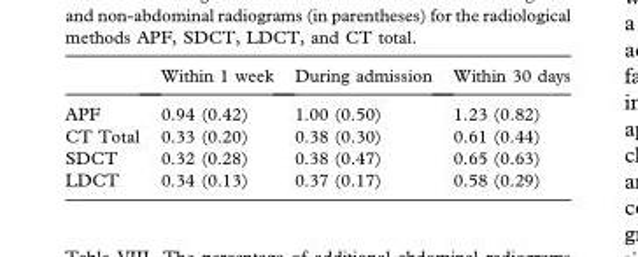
<table><thead><tr><td></td><td>Within 1 week</td><td>During admission</td><td>Within 30 days</td></tr></thead><tbody><tr><td>APF</td><td>0.94 (0.42)</td><td>1.00 (0.50)</td><td>1.23 (0.82)</td></tr><tr><td>CT Total</td><td>0.33 (0.20)</td><td>0.38 (0.30)</td><td>0.61 (0.44)</td></tr><tr><td>SDCT</td><td>0.32 (0.28)</td><td>0.38 (0.47)</td><td>0.65 (0.63)</td></tr><tr><td>LDCT</td><td>0.34 (0.13)</td><td>0.37 (0.17)</td><td>0.58 (0.29)</td></tr></tbody></table>